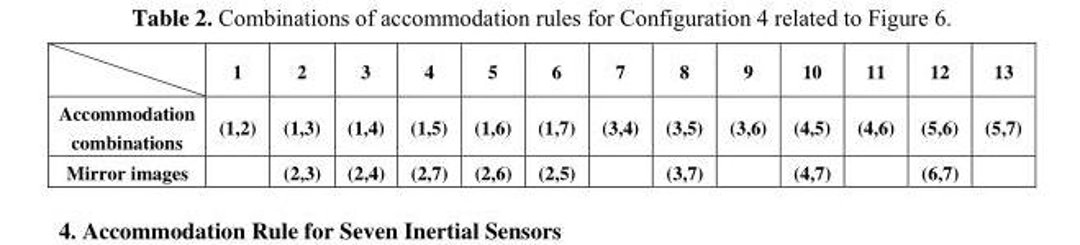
<table><thead><tr><td></td><td>1</td><td>2</td><td>3</td><td>4</td><td>5</td><td>6</td><td>7</td><td>8</td><td>9</td><td>10</td><td>11</td><td>12</td><td>13</td></tr></thead><tbody><tr><td>Accommodation combinations</td><td>(1,2)</td><td>(1,3)</td><td>(1,4)</td><td>(1,5)</td><td>(1,6)</td><td>(1,7)</td><td>(3,4)</td><td>(3,5)</td><td>(3,6)</td><td>(4,5)</td><td>(4,6)</td><td>(5,6)</td><td>(5,7)</td></tr><tr><td>Mirror images</td><td></td><td>(2,3)</td><td>(2,4)</td><td>(2,7)</td><td>(2,6)</td><td>(2,5)</td><td></td><td>(3,7)</td><td></td><td>(4,7)</td><td></td><td>(6,7)</td><td></td></tr></tbody></table>